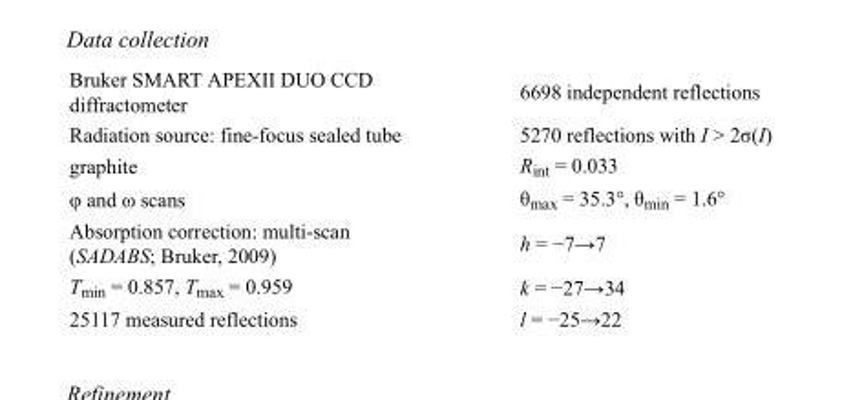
<table><tbody><tr><td>Bruker SMART APEXII DUO CCD diffractometer</td><td>6698 independent reflections</td></tr><tr><td>Radiation source: fine-focus sealed tube</td><td>5270 reflections with I &gt; 2σ(I)</td></tr><tr><td>graphite</td><td>R<sub>int</sub> = 0.033</td></tr><tr><td>φ and ω scans</td><td>θ<sub>max</sub> = 35.3°, θ<sub>min</sub> = 1.6°</td></tr><tr><td>Absorption correction: multi-scan (SADABS; Bruker, 2009)</td><td>h = −7→7</td></tr><tr><td>T<sub>min</sub> = 0.857, T<sub>max</sub> = 0.959</td><td>k = −27→34</td></tr><tr><td>25117 measured reflections</td><td>l = −25→22</td></tr></tbody></table>